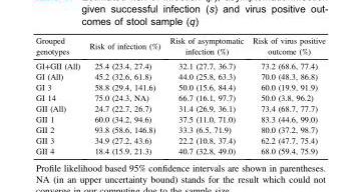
<table><thead><tr><td>Grouped genotypes</td><td>Risk of infection (%)</td><td>Risk of asymptomatic infection (%)</td><td>Risk of virus positive outcome (%)</td></tr></thead><tbody><tr><td>GI+GII (All)</td><td>25.4 (23.4, 27.4)</td><td>32.1 (27.7, 36.7)</td><td>73.2 (68.6, 77.4)</td></tr><tr><td>GI (All)</td><td>45.2 (32.6, 61.8)</td><td>44.0 (25.8, 63.3)</td><td>70.0 (48.3, 86.8)</td></tr><tr><td>GI 3</td><td>58.8 (29.4, 141.6)</td><td>50.0 (15.6, 84.4)</td><td>60.0 (19.9, 91.9)</td></tr><tr><td>GI 14</td><td>75.0 (24.3, NA)</td><td>66.7 (16.1, 97.7)</td><td>50.0 (3.8, 96.2)</td></tr><tr><td>GII (All)</td><td>24.7 (22.7, 26.7)</td><td>31.4 (26.9, 36.1)</td><td>73.4 (68.7, 77.7)</td></tr><tr><td>GII 1</td><td>60.0 (34.2, 94.6)</td><td>37.5 (11.0, 71.0)</td><td>83.3 (44.6, 99.0)</td></tr><tr><td>GII 2</td><td>93.8 (58.6, 146.8)</td><td>33.3 (6.5, 71.9)</td><td>80.0 (37.2, 98.7)</td></tr><tr><td>GII 3</td><td>34.9 (27.2, 43.6)</td><td>22.2 (10.8, 37.4)</td><td>62.2 (47.7, 75.4)</td></tr><tr><td>GII 4</td><td>18.4 (15.9, 21.3)</td><td>40.7 (32.8, 49.0)</td><td>68.0 (59.4, 75.9)</td></tr></tbody></table>